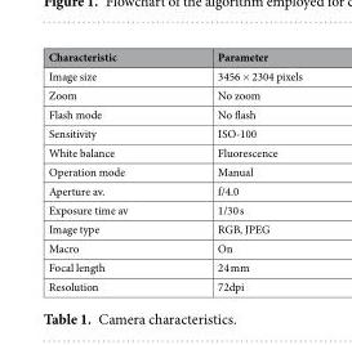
<table><thead><tr><td>Characteristic</td><td>Parameter</td></tr></thead><tbody><tr><td>Image size</td><td>3456 × 2304 pixels</td></tr><tr><td>Zoom</td><td>No zoom</td></tr><tr><td>Flash mode</td><td>No flash</td></tr><tr><td>Sensitivity</td><td>ISO-100</td></tr><tr><td>White balance</td><td>Fluorescence</td></tr><tr><td>Operation mode</td><td>Manual</td></tr><tr><td>Aperture av.</td><td>f/4.0</td></tr><tr><td>Exposure time av</td><td>1/30 s</td></tr><tr><td>Image type</td><td>RGB, JPEG</td></tr><tr><td>Macro</td><td>On</td></tr><tr><td>Focal length</td><td>24 mm</td></tr><tr><td>Resolution</td><td>72dpi</td></tr></tbody></table>